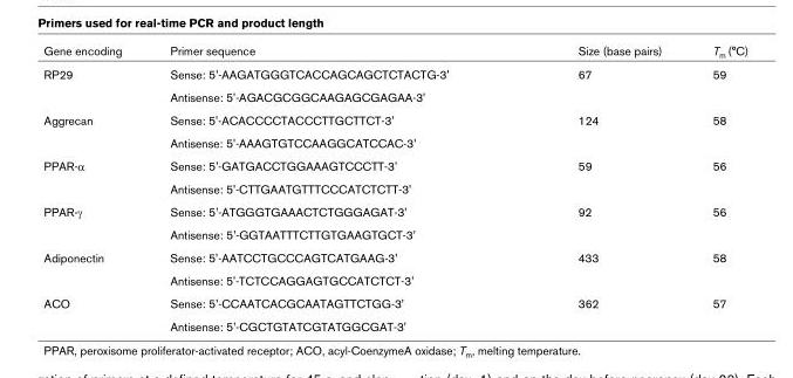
<table><thead><tr><td>Gene encoding</td><td>Primer sequence</td><td>Size (base pairs)</td><td>T<sub>m</sub> (°C)</td></tr></thead><tbody><tr><td rowspan="2">RP29</td><td>Sense: 5&#x27;-AAGATGGGTCACCAGCAGCTCTACTG-3&#x27;</td><td>67</td><td>59</td></tr><tr><td>Antisense: 5&#x27;-AGACGCGGCAAGAGCGAGAA-3&#x27;</td><td></td><td></td></tr><tr><td rowspan="2">Aggrecan</td><td>Sense: 5&#x27;-ACACCCCTACCCTTGCTTCT-3&#x27;</td><td>124</td><td>58</td></tr><tr><td>Antisense: 5&#x27;-AAAGTGTCCAAGGCATCCAC-3&#x27;</td><td></td><td></td></tr><tr><td rowspan="2">PPAR-α</td><td>Sense: 5&#x27;-GATGACCTGGAAAGTCCCTT-3&#x27;</td><td>59</td><td>56</td></tr><tr><td>Antisense: 5&#x27;-CTTGAATGTTTCCCATCTCTT-3&#x27;</td><td></td><td></td></tr><tr><td rowspan="2">PPAR-γ</td><td>Sense: 5&#x27;-ATGGGTGAAACTCTGGGAGAT-3&#x27;</td><td>92</td><td>56</td></tr><tr><td>Antisense: 5&#x27;-GGTAATTTCTTGTGAAGTGCT-3&#x27;</td><td></td><td></td></tr><tr><td rowspan="2">Adiponectin</td><td>Sense: 5&#x27;-AATCCTGCCCAGTCATGAAG-3&#x27;</td><td>433</td><td>58</td></tr><tr><td>Antisense: 5&#x27;-TCTCCAGGAGTGCCATCTCT-3&#x27;</td><td></td><td></td></tr><tr><td rowspan="2">ACO</td><td>Sense: 5&#x27;-CCAATCACGCAATAGTTCTGG-3&#x27;</td><td>362</td><td>57</td></tr><tr><td>Antisense: 5&#x27;-CGCTGTATCGTATGGCGAT-3&#x27;</td><td></td><td></td></tr></tbody></table>